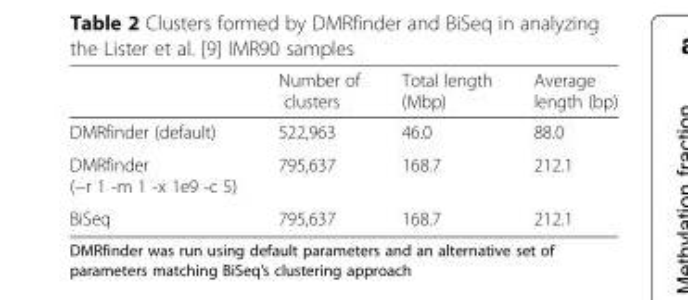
<table><thead><tr><td></td><td>Number of clusters</td><td>Total length (Mbp)</td><td>Average length (bp)</td></tr></thead><tbody><tr><td>DMRfinder (default)</td><td>522,963</td><td>46.0</td><td>88.0</td></tr><tr><td>DMRfinder (−r 1 -m 1 -x 1e9 -c 5)</td><td>795,637</td><td>168.7</td><td>212.1</td></tr><tr><td>BiSeq</td><td>795,637</td><td>168.7</td><td>212.1</td></tr></tbody></table>